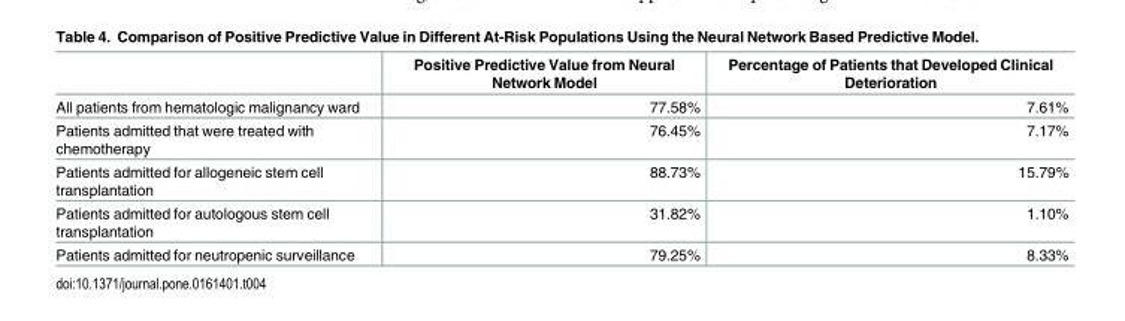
<table><thead><tr><td></td><td>Positive Predictive Value from Neural Network Model</td><td>Percentage of Patients that Developed Clinical Deterioration</td></tr></thead><tbody><tr><td>All patients from hematologic malignancy ward</td><td>77.58%</td><td>7.61%</td></tr><tr><td>Patients admitted that were treated with chemotherapy</td><td>76.45%</td><td>7.17%</td></tr><tr><td>Patients admitted for allogeneic stem cell transplantation</td><td>88.73%</td><td>15.79%</td></tr><tr><td>Patients admitted for autologous stem cell transplantation</td><td>31.82%</td><td>1.10%</td></tr><tr><td>Patients admitted for neutropenic surveillance</td><td>79.25%</td><td>8.33%</td></tr></tbody></table>